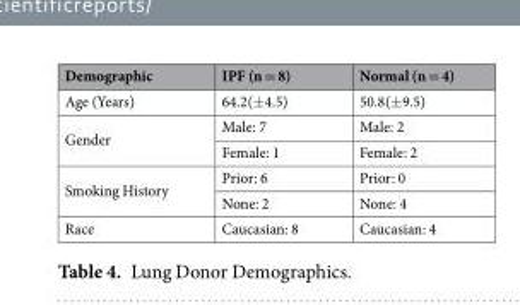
<table><thead><tr><td>Demographic</td><td>IPF (n = 8)</td><td>Normal (n = 4)</td></tr></thead><tbody><tr><td>Age (Years)</td><td>64.2(±4.5)</td><td>50.8(±9.5)</td></tr><tr><td rowspan="2">Gender</td><td>Male: 7</td><td>Male: 2</td></tr><tr><td>Female: 1</td><td>Female: 2</td></tr><tr><td rowspan="2">Smoking History</td><td>Prior: 6</td><td>Prior: 0</td></tr><tr><td>None: 2</td><td>None: 4</td></tr><tr><td>Race</td><td>Caucasian: 8</td><td>Caucasian: 4</td></tr></tbody></table>